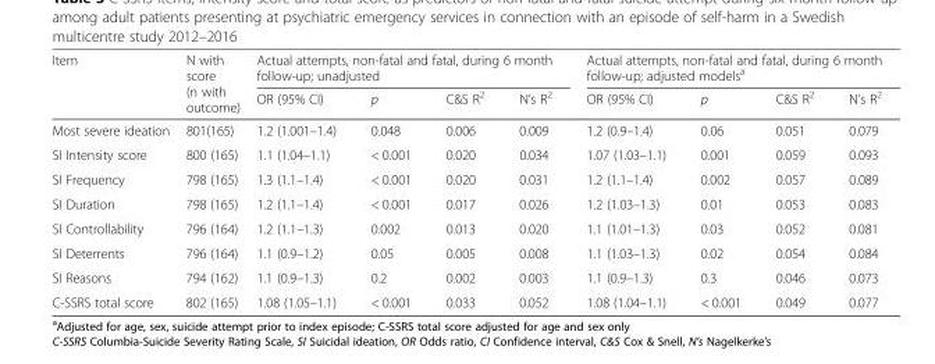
<table><thead><tr><td rowspan="2">Item</td><td rowspan="2">N with score (n with outcome)</td><td colspan="4">Actual attempts, non-fatal and fatal, during 6 month follow-up; unadjusted</td><td colspan="4">Actual attempts, non-fatal and fatal, during 6 month follow-up; adjusted models<sup>a</sup></td></tr><tr><td>OR (95% CI)</td><td>p</td><td>C&amp;S R<sup>2</sup></td><td>N’s R<sup>2</sup></td><td>OR (95% CI)</td><td>p</td><td>C&amp;S R<sup>2</sup></td><td>N’s R<sup>2</sup></td></tr></thead><tbody><tr><td>Most severe ideation</td><td>801(165)</td><td>1.2 (1.001–1.4)</td><td>0.048</td><td>0.006</td><td>0.009</td><td>1.2 (0.9–1.4)</td><td>0.06</td><td>0.051</td><td>0.079</td></tr><tr><td>SI Intensity score</td><td>800 (165)</td><td>1.1 (1.04–1.1)</td><td>&lt; 0.001</td><td>0.020</td><td>0.034</td><td>1.07 (1.03–1.1)</td><td>0.001</td><td>0.059</td><td>0.093</td></tr><tr><td>SI Frequency</td><td>798 (165)</td><td>1.3 (1.1–1.4)</td><td>&lt; 0.001</td><td>0.020</td><td>0.031</td><td>1.2 (1.1–1.4)</td><td>0.002</td><td>0.057</td><td>0.089</td></tr><tr><td>SI Duration</td><td>798 (165)</td><td>1.2 (1.1–1.4)</td><td>&lt; 0.001</td><td>0.017</td><td>0.026</td><td>1.2 (1.03–1.3)</td><td>0.01</td><td>0.053</td><td>0.083</td></tr><tr><td>SI Controllability</td><td>796 (164)</td><td>1.2 (1.1–1.3)</td><td>0.002</td><td>0.013</td><td>0.020</td><td>1.1 (1.01–1.3)</td><td>0.03</td><td>0.052</td><td>0.081</td></tr><tr><td>SI Deterrents</td><td>796 (164)</td><td>1.1 (0.9–1.2)</td><td>0.05</td><td>0.005</td><td>0.008</td><td>1.1 (1.03–1.3)</td><td>0.02</td><td>0.054</td><td>0.084</td></tr><tr><td>SI Reasons</td><td>794 (162)</td><td>1.1 (0.9–1.3)</td><td>0.2</td><td>0.002</td><td>0.003</td><td>1.1 (0.9–1.3)</td><td>0.3</td><td>0.046</td><td>0.073</td></tr><tr><td>C-SSRS total score</td><td>802 (165)</td><td>1.08 (1.05–1.1)</td><td>&lt; 0.001</td><td>0.033</td><td>0.052</td><td>1.08 (1.04–1.1)</td><td>&lt; 0.001</td><td>0.049</td><td>0.077</td></tr></tbody></table>